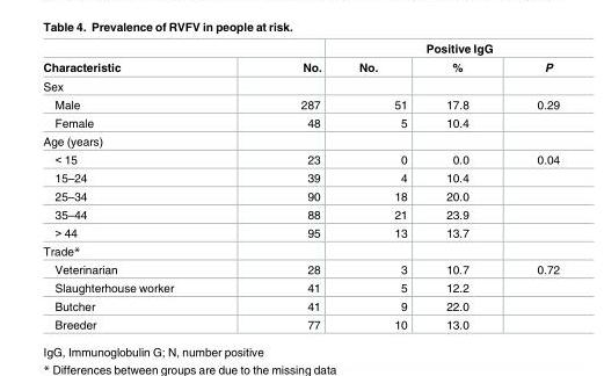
<table><thead><tr><td rowspan="2">Characteristic</td><td rowspan="2">No.</td><td colspan="3">Positive IgG</td></tr><tr><td>No.</td><td>%</td><td>P</td></tr></thead><tbody><tr><td colspan="5">Sex</td></tr><tr><td>Male</td><td>287</td><td>51</td><td>17.8</td><td>0.29</td></tr><tr><td>Female</td><td>48</td><td>5</td><td>10.4</td><td></td></tr><tr><td colspan="5">Age (years)</td></tr><tr><td>&lt; 15</td><td>23</td><td>0</td><td>0.0</td><td>0.04</td></tr><tr><td>15–24</td><td>39</td><td>4</td><td>10.4</td><td></td></tr><tr><td>25–34</td><td>90</td><td>18</td><td>20.0</td><td></td></tr><tr><td>35–44</td><td>88</td><td>21</td><td>23.9</td><td></td></tr><tr><td>&gt; 44</td><td>95</td><td>13</td><td>13.7</td><td></td></tr><tr><td colspan="5">Trade*</td></tr><tr><td>Veterinarian</td><td>28</td><td>3</td><td>10.7</td><td>0.72</td></tr><tr><td>Slaughterhouse worker</td><td>41</td><td>5</td><td>12.2</td><td></td></tr><tr><td>Butcher</td><td>41</td><td>9</td><td>22.0</td><td></td></tr><tr><td>Breeder</td><td>77</td><td>10</td><td>13.0</td><td></td></tr></tbody></table>